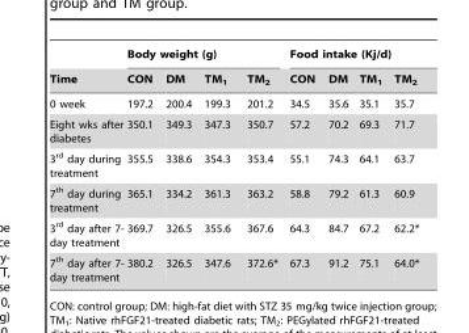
<table><thead><tr><td rowspan="2">Time</td><td colspan="4">Body weight (g)</td><td colspan="4">Food intake (Kj/d)</td></tr><tr><td>CON</td><td>DM</td><td>TM<sub>1</sub></td><td>TM<sub>2</sub></td><td>CON</td><td>DM</td><td>TM<sub>1</sub></td><td>TM<sub>2</sub></td></tr></thead><tbody><tr><td>0 week</td><td>197.2</td><td>200.4</td><td>199.3</td><td>201.2</td><td>34.5</td><td>35.6</td><td>35.1</td><td>35.7</td></tr><tr><td>Eight wks after diabetes</td><td>350.1</td><td>349.3</td><td>347.3</td><td>350.7</td><td>57.2</td><td>70.2</td><td>69.3</td><td>71.7</td></tr><tr><td>3<sup>rd</sup> day during treatment</td><td>355.5</td><td>338.6</td><td>354.3</td><td>353.4</td><td>55.1</td><td>74.3</td><td>64.1</td><td>63.7</td></tr><tr><td>7<sup>th</sup> day during treatment</td><td>365.1</td><td>334.2</td><td>361.3</td><td>363.2</td><td>58.8</td><td>79.2</td><td>61.3</td><td>60.9</td></tr><tr><td>3<sup>rd</sup> day after 7- day treatment</td><td>369.7</td><td>326.5</td><td>355.6</td><td>367.6</td><td>64.3</td><td>84.7</td><td>67.2</td><td>62.2*</td></tr><tr><td>7<sup>th</sup> day after 7- day treatment</td><td>380.2</td><td>326.5</td><td>347.6</td><td>372.6*</td><td>67.3</td><td>91.2</td><td>75.1</td><td>64.0*</td></tr></tbody></table>